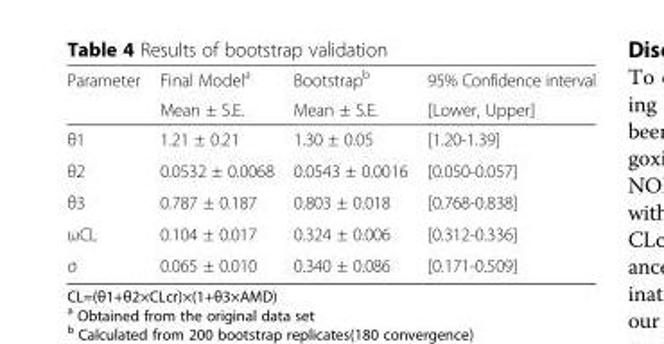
<table><thead><tr><td rowspan="2">Parameter</td><td rowspan="2">Final Model<sup>a</sup> Mean ± S.E.</td><td rowspan="2">Bootstrap<sup>b</sup> Mean ± S.E.</td><td rowspan="2">95% Confidence interval [Lower, Upper]</td></tr><tr></tr></thead><tbody><tr><td>θ1</td><td>1.21 ± 0.21</td><td>1.30 ± 0.05</td><td>[1.20-1.39]</td></tr><tr><td>θ2</td><td>0.0532 ± 0.0068</td><td>0.0543 ± 0.0016</td><td>[0.050-0.057]</td></tr><tr><td>θ3</td><td>0.787 ± 0.187</td><td>0.803 ± 0.018</td><td>[0.768-0.838]</td></tr><tr><td>ωCL</td><td>0.104 ± 0.017</td><td>0.324 ± 0.006</td><td>[0.312-0.336]</td></tr><tr><td>σ</td><td>0.065 ± 0.010</td><td>0.340 ± 0.086</td><td>[0.171-0.509]</td></tr></tbody></table>